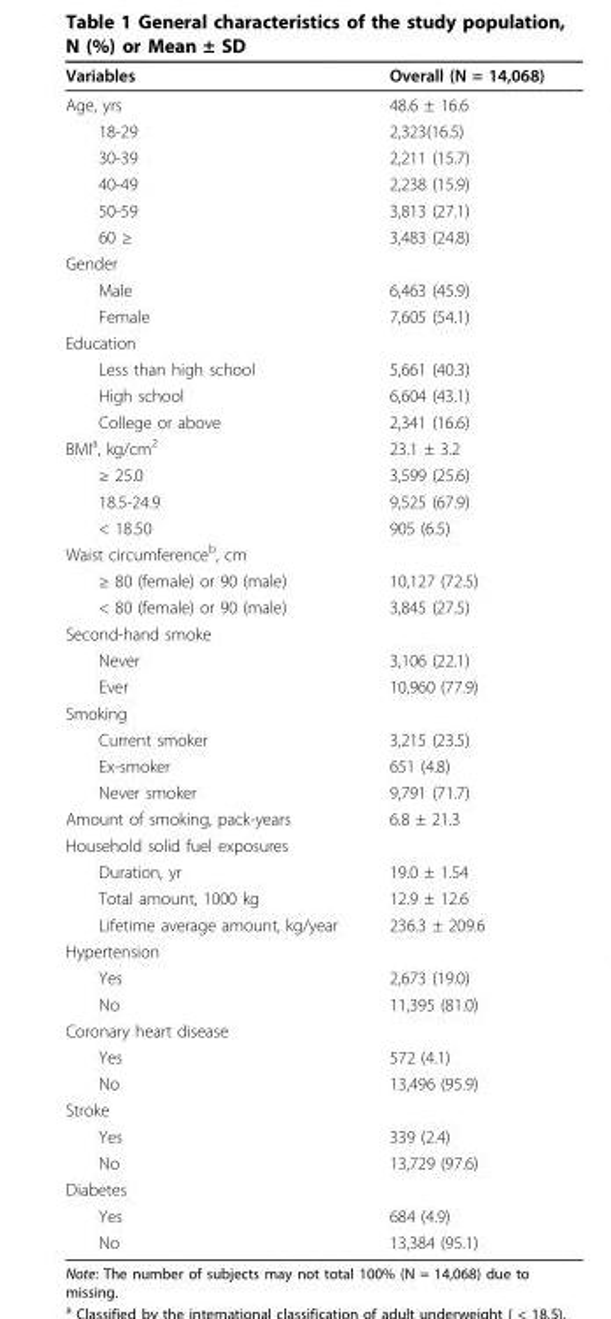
<table><thead><tr><td>Variables</td><td>Overall (N = 14,068)</td></tr></thead><tbody><tr><td>Age, yrs</td><td>48.6 ± 16.6</td></tr><tr><td>18-29</td><td>2,323(16.5)</td></tr><tr><td>30-39</td><td>2,211 (15.7)</td></tr><tr><td>40-49</td><td>2,238 (15.9)</td></tr><tr><td>50-59</td><td>3,813 (27.1)</td></tr><tr><td>60 ≥</td><td>3,483 (24.8)</td></tr><tr><td colspan="2">Gender</td></tr><tr><td>Male</td><td>6,463 (45.9)</td></tr><tr><td>Female</td><td>7,605 (54.1)</td></tr><tr><td colspan="2">Education</td></tr><tr><td>Less than high school</td><td>5,661 (40.3)</td></tr><tr><td>High school</td><td>6,604 (43.1)</td></tr><tr><td>College or above</td><td>2,341 (16.6)</td></tr><tr><td>BMI<sup>a</sup>, kg/cm<sup>2</sup></td><td>23.1 ± 3.2</td></tr><tr><td>≥ 25.0</td><td>3,599 (25.6)</td></tr><tr><td>18.5-24.9</td><td>9,525 (67.9)</td></tr><tr><td>&lt; 18.50</td><td>905 (6.5)</td></tr><tr><td colspan="2">Waist circumference<sup>b</sup>, cm</td></tr><tr><td>≥ 80 (female) or 90 (male)</td><td>10,127 (72.5)</td></tr><tr><td>&lt; 80 (female) or 90 (male)</td><td>3,845 (27.5)</td></tr><tr><td colspan="2">Second-hand smoke</td></tr><tr><td>Never</td><td>3,106 (22.1)</td></tr><tr><td>Ever</td><td>10,960 (77.9)</td></tr><tr><td colspan="2">Smoking</td></tr><tr><td>Current smoker</td><td>3,215 (23.5)</td></tr><tr><td>Ex-smoker</td><td>651 (4.8)</td></tr><tr><td>Never smoker</td><td>9,791 (71.7)</td></tr><tr><td>Amount of smoking, pack-years</td><td>6.8 ± 21.3</td></tr><tr><td colspan="2">Household solid fuel exposures</td></tr><tr><td>Duration, yr</td><td>19.0 ± 1.54</td></tr><tr><td>Total amount, 1000 kg</td><td>12.9 ± 12.6</td></tr><tr><td>Lifetime average amount, kg/year</td><td>236.3 ± 209.6</td></tr><tr><td colspan="2">Hypertension</td></tr><tr><td>Yes</td><td>2,673 (19.0)</td></tr><tr><td>No</td><td>11,395 (81.0)</td></tr><tr><td colspan="2">Coronary heart disease</td></tr><tr><td>Yes</td><td>572 (4.1)</td></tr><tr><td>No</td><td>13,496 (95.9)</td></tr><tr><td colspan="2">Stroke</td></tr><tr><td>Yes</td><td>339 (2.4)</td></tr><tr><td>No</td><td>13,729 (97.6)</td></tr><tr><td colspan="2">Diabetes</td></tr><tr><td>Yes</td><td>684 (4.9)</td></tr><tr><td>No</td><td>13,384 (95.1)</td></tr></tbody></table>